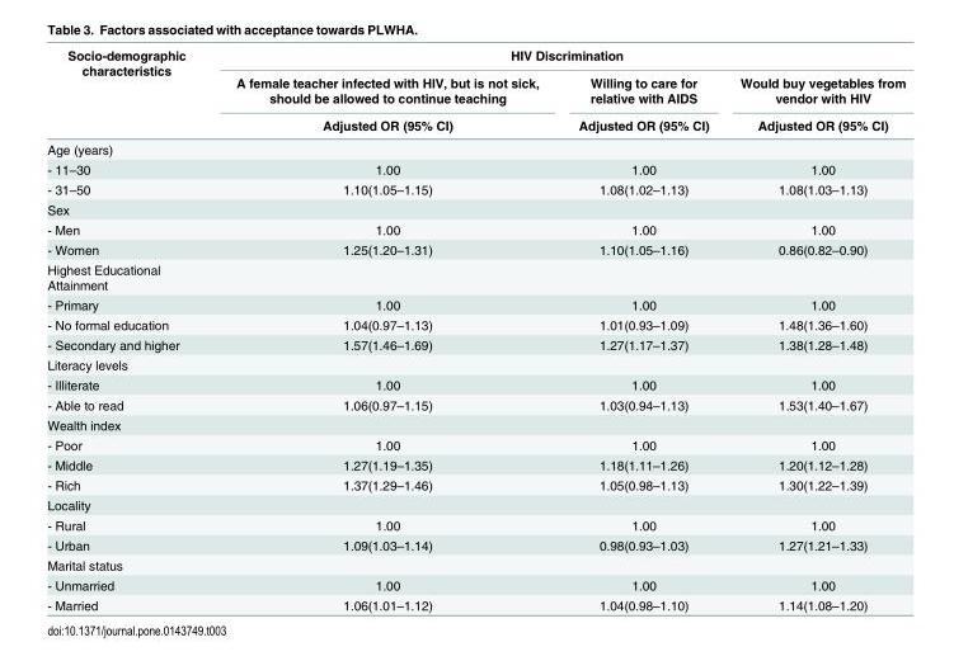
<table><thead><tr><td rowspan="3">Socio-demographic characteristics</td><td colspan="3">HIV Discrimination</td></tr><tr><td rowspan="2">A female teacher infected with HIV, but is not sick, should be allowed to continue teaching Adjusted OR (95% CI)</td><td rowspan="2">Willing to care for relative with AIDS Adjusted OR (95% CI)</td><td rowspan="2">Would buy vegetables from vendor with HIV Adjusted OR (95% CI)</td></tr><tr></tr></thead><tbody><tr><td colspan="4">Age (years)</td></tr><tr><td>- 11–30</td><td>1.00</td><td>1.00</td><td>1.00</td></tr><tr><td>- 31–50</td><td>1.10(1.05–1.15)</td><td>1.08(1.02–1.13)</td><td>1.08(1.03–1.13)</td></tr><tr><td colspan="4">Sex</td></tr><tr><td>- Men</td><td>1.00</td><td>1.00</td><td>1.00</td></tr><tr><td>- Women</td><td>1.25(1.20–1.31)</td><td>1.10(1.05–1.16)</td><td>0.86(0.82–0.90)</td></tr><tr><td colspan="4">Highest Educational Attainment</td></tr><tr><td>- Primary</td><td>1.00</td><td>1.00</td><td>1.00</td></tr><tr><td>- No formal education</td><td>1.04(0.97–1.13)</td><td>1.01(0.93–1.09)</td><td>1.48(1.36–1.60)</td></tr><tr><td>- Secondary and higher</td><td>1.57(1.46–1.69)</td><td>1.27(1.17–1.37)</td><td>1.38(1.28–1.48)</td></tr><tr><td colspan="4">Literacy levels</td></tr><tr><td>- Illiterate</td><td>1.00</td><td>1.00</td><td>1.00</td></tr><tr><td>- Able to read</td><td>1.06(0.97–1.15)</td><td>1.03(0.94–1.13)</td><td>1.53(1.40–1.67)</td></tr><tr><td colspan="4">Wealth index</td></tr><tr><td>- Poor</td><td>1.00</td><td>1.00</td><td>1.00</td></tr><tr><td>- Middle</td><td>1.27(1.19–1.35)</td><td>1.18(1.11–1.26)</td><td>1.20(1.12–1.28)</td></tr><tr><td>- Rich</td><td>1.37(1.29–1.46)</td><td>1.05(0.98–1.13)</td><td>1.30(1.22–1.39)</td></tr><tr><td colspan="4">Locality</td></tr><tr><td>- Rural</td><td>1.00</td><td>1.00</td><td>1.00</td></tr><tr><td>- Urban</td><td>1.09(1.03–1.14)</td><td>0.98(0.93–1.03)</td><td>1.27(1.21–1.33)</td></tr><tr><td colspan="4">Marital status</td></tr><tr><td>- Unmarried</td><td>1.00</td><td>1.00</td><td>1.00</td></tr><tr><td>- Married</td><td>1.06(1.01–1.12)</td><td>1.04(0.98–1.10)</td><td>1.14(1.08–1.20)</td></tr></tbody></table>